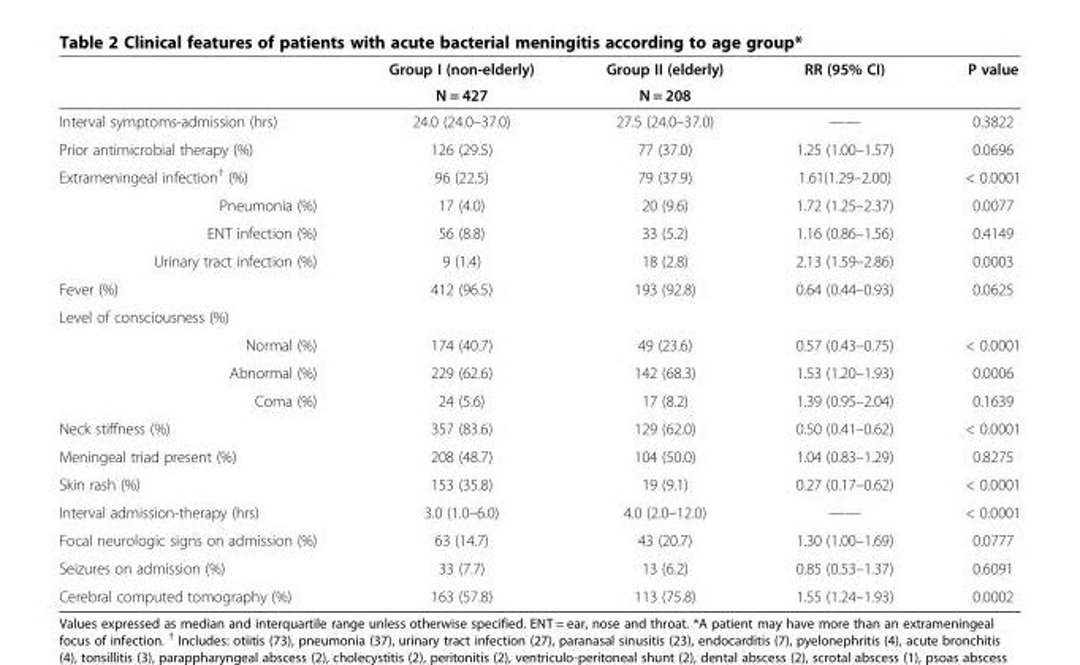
<table><thead><tr><td rowspan="2"></td><td rowspan="2">Group I (non-elderly) N = 427</td><td rowspan="2">Group II (elderly) N = 208</td><td rowspan="2">RR (95% CI)</td><td rowspan="2">P value</td></tr><tr></tr></thead><tbody><tr><td>Interval symptoms-admission (hrs)</td><td>24.0 (24.0–37.0)</td><td>27.5 (24.0–37.0)</td><td>——</td><td>0.3822</td></tr><tr><td>Prior antimicrobial therapy (%)</td><td>126 (29.5)</td><td>77 (37.0)</td><td>1.25 (1.00–1.57)</td><td>0.0696</td></tr><tr><td>Extrameningeal infection<sup>†</sup> (%)</td><td>96 (22.5)</td><td>79 (37.9)</td><td>1.61(1.29–2.00)</td><td>&lt; 0.0001</td></tr><tr><td>Pneumonia (%)</td><td>17 (4.0)</td><td>20 (9.6)</td><td>1.72 (1.25–2.37)</td><td>0.0077</td></tr><tr><td>ENT infection (%)</td><td>56 (8.8)</td><td>33 (5.2)</td><td>1.16 (0.86–1.56)</td><td>0.4149</td></tr><tr><td>Urinary tract infection (%)</td><td>9 (1.4)</td><td>18 (2.8)</td><td>2.13 (1.59–2.86)</td><td>0.0003</td></tr><tr><td>Fever (%)</td><td>412 (96.5)</td><td>193 (92.8)</td><td>0.64 (0.44–0.93)</td><td>0.0625</td></tr><tr><td colspan="5">Level of consciousness (%)</td></tr><tr><td>Normal (%)</td><td>174 (40.7)</td><td>49 (23.6)</td><td>0.57 (0.43–0.75)</td><td>&lt; 0.0001</td></tr><tr><td>Abnormal (%)</td><td>229 (62.6)</td><td>142 (68.3)</td><td>1.53 (1.20–1.93)</td><td>0.0006</td></tr><tr><td>Coma (%)</td><td>24 (5.6)</td><td>17 (8.2)</td><td>1.39 (0.95–2.04)</td><td>0.1639</td></tr><tr><td>Neck stiffness (%)</td><td>357 (83.6)</td><td>129 (62.0)</td><td>0.50 (0.41–0.62)</td><td>&lt; 0.0001</td></tr><tr><td>Meningeal triad present (%)</td><td>208 (48.7)</td><td>104 (50.0)</td><td>1.04 (0.83–1.29)</td><td>0.8275</td></tr><tr><td>Skin rash (%)</td><td>153 (35.8)</td><td>19 (9.1)</td><td>0.27 (0.17–0.62)</td><td>&lt; 0.0001</td></tr><tr><td>Interval admission-therapy (hrs)</td><td>3.0 (1.0–6.0)</td><td>4.0 (2.0–12.0)</td><td>——</td><td>&lt; 0.0001</td></tr><tr><td>Focal neurologic signs on admission (%)</td><td>63 (14.7)</td><td>43 (20.7)</td><td>1.30 (1.00–1.69)</td><td>0.0777</td></tr><tr><td>Seizures on admission (%)</td><td>33 (7.7)</td><td>13 (6.2)</td><td>0.85 (0.53–1.37)</td><td>0.6091</td></tr><tr><td>Cerebral computed tomography (%)</td><td>163 (57.8)</td><td>113 (75.8)</td><td>1.55 (1.24–1.93)</td><td>0.0002</td></tr></tbody></table>